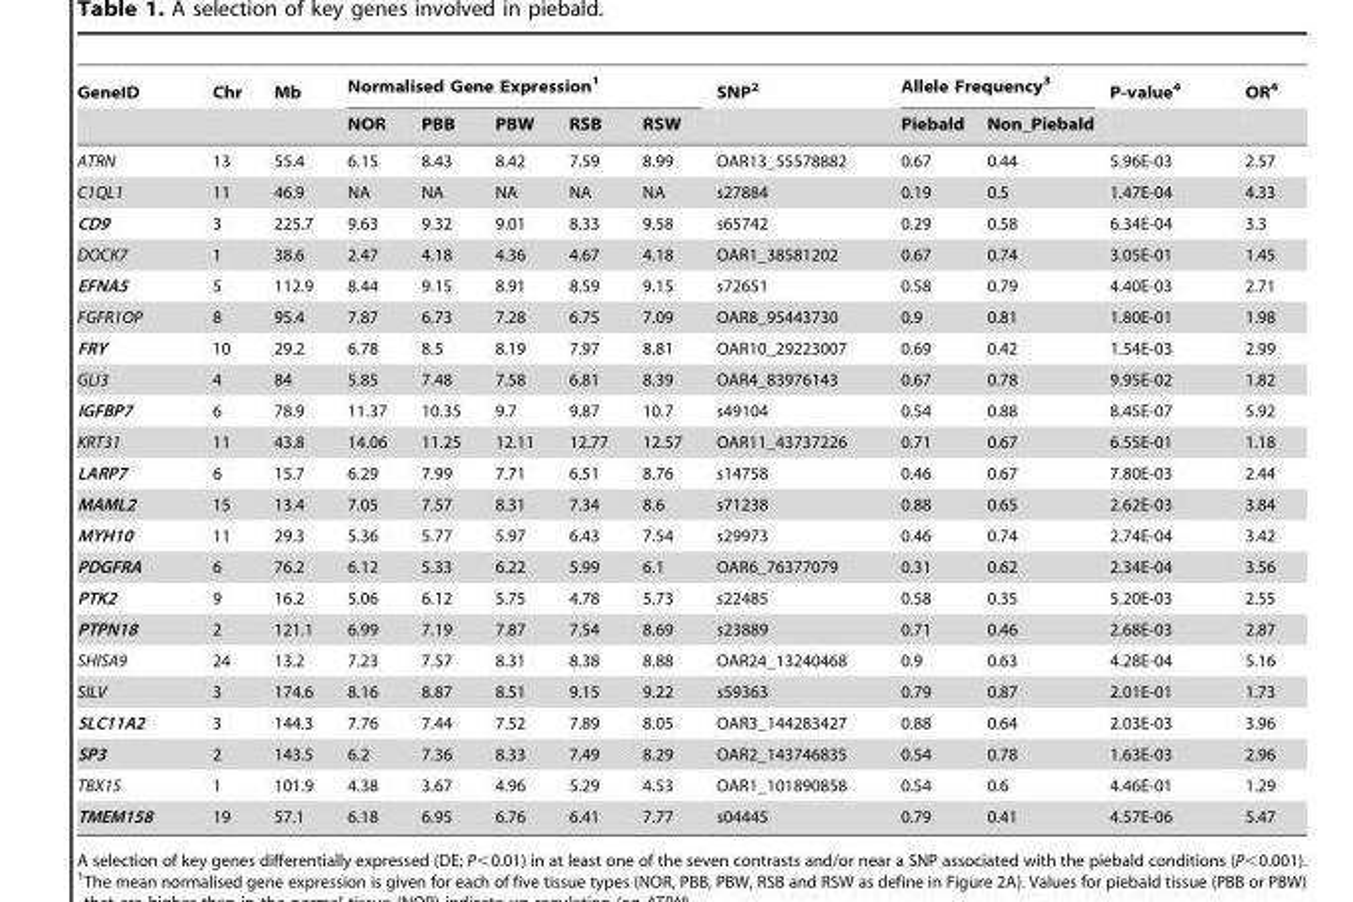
<table><thead><tr><td rowspan="2">GeneID</td><td rowspan="2">Chr</td><td rowspan="2">Mb</td><td colspan="5">Normalised Gene Expression<sup>1</sup></td><td rowspan="2">SNP<sup>2</sup></td><td colspan="2">Allele Frequency<sup>3</sup></td><td rowspan="2">P-value<sup>4</sup></td><td rowspan="2">OR<sup>4</sup></td></tr><tr><td>NOR</td><td>PBB</td><td>PBW</td><td>RSB</td><td>RSW</td><td>Piebald</td><td>Non_Piebald</td></tr></thead><tbody><tr><td>ATRN</td><td>13</td><td>55.4</td><td>6.15</td><td>8.43</td><td>8.42</td><td>7.59</td><td>8.99</td><td>OAR13_55578882</td><td>0.67</td><td>0.44</td><td>5.96E-03</td><td>2.57</td></tr><tr><td>C1QL1</td><td>11</td><td>46.9</td><td>NA</td><td>NA</td><td>NA</td><td>NA</td><td>NA</td><td>s27884</td><td>0.19</td><td>0.5</td><td>1.47E-04</td><td>4.33</td></tr><tr><td>CD9</td><td>3</td><td>225.7</td><td>9.63</td><td>9.32</td><td>9.01</td><td>8.33</td><td>9.58</td><td>s65742</td><td>0.29</td><td>0.58</td><td>6.34E-04</td><td>3.3</td></tr><tr><td>DOCK7</td><td>1</td><td>38.6</td><td>2.47</td><td>4.18</td><td>4.36</td><td>4.67</td><td>4.18</td><td>OAR1_38581202</td><td>0.67</td><td>0.74</td><td>3.05E-01</td><td>1.45</td></tr><tr><td>EFNA5</td><td>5</td><td>112.9</td><td>8.44</td><td>9.15</td><td>8.91</td><td>8.59</td><td>9.15</td><td>s72651</td><td>0.58</td><td>0.79</td><td>4.40E-03</td><td>2.71</td></tr><tr><td>FGFR1OP</td><td>8</td><td>95.4</td><td>7.87</td><td>6.73</td><td>7.28</td><td>6.75</td><td>7.09</td><td>OAR8_95443730</td><td>0.9</td><td>0.81</td><td>1.80E-01</td><td>1.98</td></tr><tr><td>FRY</td><td>10</td><td>29.2</td><td>6.78</td><td>8.5</td><td>8.19</td><td>7.97</td><td>8.81</td><td>OAR10_29223007</td><td>0.69</td><td>0.42</td><td>1.54E-03</td><td>2.99</td></tr><tr><td>GLI3</td><td>4</td><td>84</td><td>5.85</td><td>7.48</td><td>7.58</td><td>6.81</td><td>8.39</td><td>OAR4_83976143</td><td>0.67</td><td>0.78</td><td>9.95E-02</td><td>1.82</td></tr><tr><td>IGFBP7</td><td>6</td><td>78.9</td><td>11.37</td><td>10.35</td><td>9.7</td><td>9.87</td><td>10.7</td><td>s49104</td><td>0.54</td><td>0.88</td><td>8.45E-07</td><td>5.92</td></tr><tr><td>KRT31</td><td>11</td><td>43.8</td><td>14.06</td><td>11.25</td><td>12.11</td><td>12.77</td><td>12.57</td><td>OAR11_43737226</td><td>0.71</td><td>0.67</td><td>6.55E-01</td><td>1.18</td></tr><tr><td>LARP7</td><td>6</td><td>15.7</td><td>6.29</td><td>7.99</td><td>7.71</td><td>6.51</td><td>8.76</td><td>s14758</td><td>0.46</td><td>0.67</td><td>7.80E-03</td><td>2.44</td></tr><tr><td>MAML2</td><td>15</td><td>13.4</td><td>7.05</td><td>7.57</td><td>8.31</td><td>7.34</td><td>8.6</td><td>s71238</td><td>0.88</td><td>0.65</td><td>2.62E-03</td><td>3.84</td></tr><tr><td>MYH10</td><td>11</td><td>29.3</td><td>5.36</td><td>5.77</td><td>5.97</td><td>6.43</td><td>7.54</td><td>s29973</td><td>0.46</td><td>0.74</td><td>2.74E-04</td><td>3.42</td></tr><tr><td>PDGFRA</td><td>6</td><td>76.2</td><td>6.12</td><td>5.33</td><td>6.22</td><td>5.99</td><td>6.1</td><td>OAR6_76377079</td><td>0.31</td><td>0.62</td><td>2.34E-04</td><td>3.56</td></tr><tr><td>PTK2</td><td>9</td><td>16.2</td><td>5.06</td><td>6.12</td><td>5.75</td><td>4.78</td><td>5.73</td><td>s22485</td><td>0.58</td><td>0.35</td><td>5.20E-03</td><td>2.55</td></tr><tr><td>PTPN18</td><td>2</td><td>121.1</td><td>6.99</td><td>7.19</td><td>7.87</td><td>7.54</td><td>8.69</td><td>s23889</td><td>0.71</td><td>0.46</td><td>2.68E-03</td><td>2.87</td></tr><tr><td>SHISA9</td><td>24</td><td>13.2</td><td>7.23</td><td>7.57</td><td>8.31</td><td>8.38</td><td>8.88</td><td>OAR24_13240468</td><td>0.9</td><td>0.63</td><td>4.28E-04</td><td>5.16</td></tr><tr><td>SILV</td><td>3</td><td>174.6</td><td>8.16</td><td>8.87</td><td>8.51</td><td>9.15</td><td>9.22</td><td>s59363</td><td>0.79</td><td>0.87</td><td>2.01E-01</td><td>1.73</td></tr><tr><td>SLC11A2</td><td>3</td><td>144.3</td><td>7.76</td><td>7.44</td><td>7.52</td><td>7.89</td><td>8.05</td><td>OAR3_144283427</td><td>0.88</td><td>0.64</td><td>2.03E-03</td><td>3.96</td></tr><tr><td>SP3</td><td>2</td><td>143.5</td><td>6.2</td><td>7.36</td><td>8.33</td><td>7.49</td><td>8.29</td><td>OAR2_143746835</td><td>0.54</td><td>0.78</td><td>1.63E-03</td><td>2.96</td></tr><tr><td>TBX15</td><td>1</td><td>101.9</td><td>4.38</td><td>3.67</td><td>4.96</td><td>5.29</td><td>4.53</td><td>OAR1_101890858</td><td>0.54</td><td>0.6</td><td>4.46E-01</td><td>1.29</td></tr><tr><td>TMEM158</td><td>19</td><td>57.1</td><td>6.18</td><td>6.95</td><td>6.76</td><td>6.41</td><td>7.77</td><td>s04445</td><td>0.79</td><td>0.41</td><td>4.57E-06</td><td>5.47</td></tr></tbody></table>